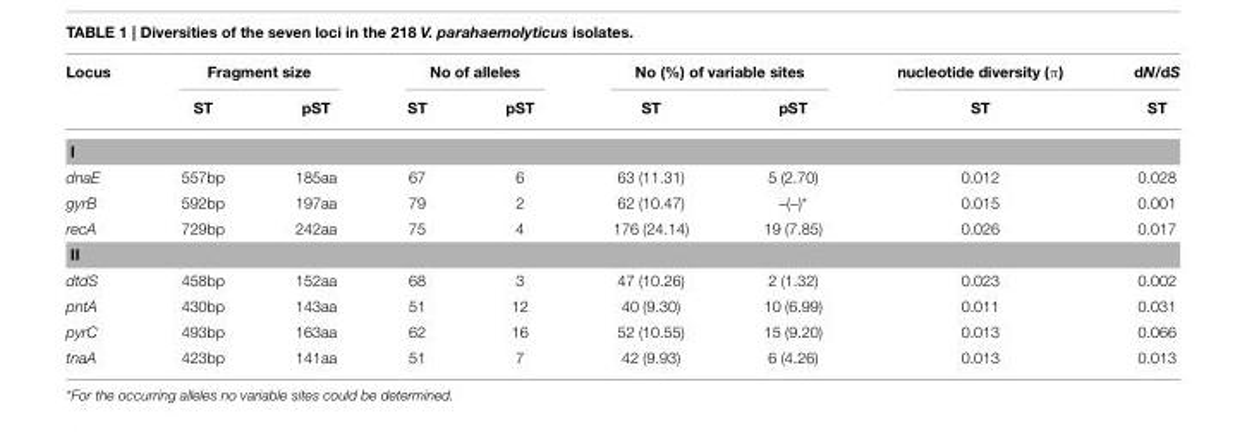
<table><thead><tr><td rowspan="2">Locus</td><td colspan="2">Fragment size</td><td colspan="2">No of alleles</td><td colspan="2">No (%) of variable sites</td><td rowspan="2">nucleotide diversity (π) ST</td><td rowspan="2">dN/dS ST</td></tr><tr><td>ST</td><td>pST</td><td>ST</td><td>pST</td><td>ST</td><td>pST</td></tr></thead><tbody><tr><td colspan="9">I</td></tr><tr><td>dnaE</td><td>557bp</td><td>185aa</td><td>67</td><td>6</td><td>63 (11.31)</td><td>5 (2.70)</td><td>0.012</td><td>0.028</td></tr><tr><td>gyrB</td><td>592bp</td><td>197aa</td><td>79</td><td>2</td><td>62 (10.47)</td><td>–(–)*</td><td>0.015</td><td>0.001</td></tr><tr><td>recA</td><td>729bp</td><td>242aa</td><td>75</td><td>4</td><td>176 (24.14)</td><td>19 (7.85)</td><td>0.026</td><td>0.017</td></tr><tr><td colspan="9">II</td></tr><tr><td>dtdS</td><td>458bp</td><td>152aa</td><td>68</td><td>3</td><td>47 (10.26)</td><td>2 (1.32)</td><td>0.023</td><td>0.002</td></tr><tr><td>pntA</td><td>430bp</td><td>143aa</td><td>51</td><td>12</td><td>40 (9.30)</td><td>10 (6.99)</td><td>0.011</td><td>0.031</td></tr><tr><td>pyrC</td><td>493bp</td><td>163aa</td><td>62</td><td>16</td><td>52 (10.55)</td><td>15 (9.20)</td><td>0.013</td><td>0.066</td></tr><tr><td>tnaA</td><td>423bp</td><td>141aa</td><td>51</td><td>7</td><td>42 (9.93)</td><td>6 (4.26)</td><td>0.013</td><td>0.013</td></tr></tbody></table>